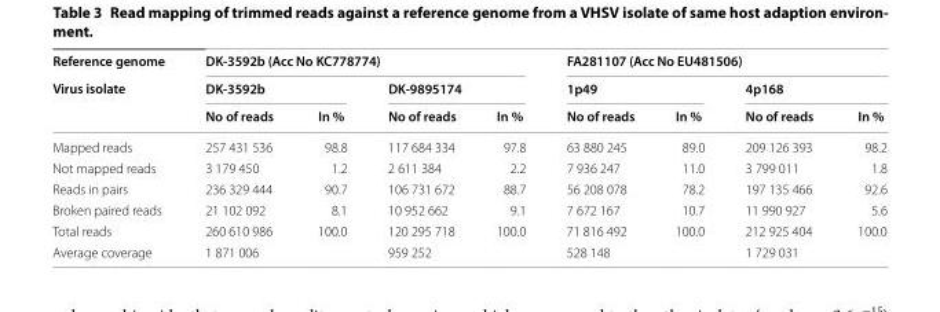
<table><thead><tr><td rowspan="3">Reference genome Virus isolate</td><td colspan="4">DK-3592b (Acc No KC778774)</td><td colspan="4">FA281107 (Acc No EU481506)</td></tr><tr><td colspan="2">DK-3592b</td><td colspan="2">DK-9895174</td><td colspan="2">1p49</td><td colspan="2">4p168</td></tr><tr><td>No of reads</td><td>In %</td><td>No of reads</td><td>In %</td><td>No of reads</td><td>In %</td><td>No of reads</td><td>In %</td></tr></thead><tbody><tr><td>Mapped reads</td><td>257 431 536</td><td>98.8</td><td>117 684 334</td><td>97.8</td><td>63 880 245</td><td>89.0</td><td>209 126 393</td><td>98.2</td></tr><tr><td>Not mapped reads</td><td>3 179 450</td><td>1.2</td><td>2 611 384</td><td>2.2</td><td>7 936 247</td><td>11.0</td><td>3 799 011</td><td>1.8</td></tr><tr><td>Reads in pairs</td><td>236 329 444</td><td>90.7</td><td>106 731 672</td><td>88.7</td><td>56 208 078</td><td>78.2</td><td>197 135 466</td><td>92.6</td></tr><tr><td>Broken paired reads</td><td>21 102 092</td><td>8.1</td><td>10 952 662</td><td>9.1</td><td>7 672 167</td><td>10.7</td><td>11 990 927</td><td>5.6</td></tr><tr><td>Total reads</td><td>260 610 986</td><td>100.0</td><td>120 295 718</td><td>100.0</td><td>71 816 492</td><td>100.0</td><td>212 925 404</td><td>100.0</td></tr><tr><td>Average coverage</td><td colspan="2">1 871 006</td><td colspan="2">959 252</td><td colspan="2">528 148</td><td colspan="2">1 729 031</td></tr></tbody></table>